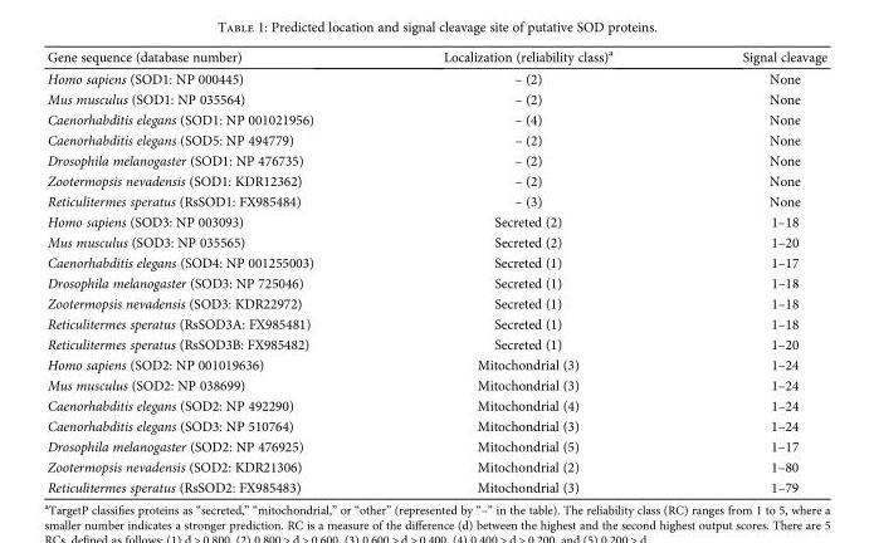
<table><thead><tr><td>Gene sequence (database number)</td><td>Localization (reliability class)<sup>a</sup></td><td>Signal cleavage</td></tr></thead><tbody><tr><td>Homo sapiens (SOD1: NP 000445)</td><td>– (2)</td><td>None</td></tr><tr><td>Mus musculus (SOD1: NP 035564)</td><td>– (2)</td><td>None</td></tr><tr><td>Caenorhabditis elegans (SOD1: NP 001021956)</td><td>– (4)</td><td>None</td></tr><tr><td>Caenorhabditis elegans (SOD5: NP 494779)</td><td>– (2)</td><td>None</td></tr><tr><td>Drosophila melanogaster (SOD1: NP 476735)</td><td>– (2)</td><td>None</td></tr><tr><td>Zootermopsis nevadensis (SOD1: KDR12362)</td><td>– (2)</td><td>None</td></tr><tr><td>Reticulitermes speratus (RsSOD1: FX985484)</td><td>– (3)</td><td>None</td></tr><tr><td>Homo sapiens (SOD3: NP 003093)</td><td>Secreted (2)</td><td>1–18</td></tr><tr><td>Mus musculus (SOD3: NP 035565)</td><td>Secreted (2)</td><td>1–20</td></tr><tr><td>Caenorhabditis elegans (SOD4: NP 001255003)</td><td>Secreted (1)</td><td>1–17</td></tr><tr><td>Drosophila melanogaster (SOD3: NP 725046)</td><td>Secreted (1)</td><td>1–18</td></tr><tr><td>Zootermopsis nevadensis (SOD3: KDR22972)</td><td>Secreted (1)</td><td>1–18</td></tr><tr><td>Reticulitermes speratus (RsSOD3A: FX985481)</td><td>Secreted (1)</td><td>1–18</td></tr><tr><td>Reticulitermes speratus (RsSOD3B: FX985482)</td><td>Secreted (1)</td><td>1–20</td></tr><tr><td>Homo sapiens (SOD2: NP 001019636)</td><td>Mitochondrial (3)</td><td>1–24</td></tr><tr><td>Mus musculus (SOD2: NP 038699)</td><td>Mitochondrial (3)</td><td>1–24</td></tr><tr><td>Caenorhabditis elegans (SOD2: NP 492290)</td><td>Mitochondrial (4)</td><td>1–24</td></tr><tr><td>Caenorhabditis elegans (SOD3: NP 510764)</td><td>Mitochondrial (3)</td><td>1–24</td></tr><tr><td>Drosophila melanogaster (SOD2: NP 476925)</td><td>Mitochondrial (5)</td><td>1–17</td></tr><tr><td>Zootermopsis nevadensis (SOD2: KDR21306)</td><td>Mitochondrial (2)</td><td>1–80</td></tr><tr><td>Reticulitermes speratus (RsSOD2: FX985483)</td><td>Mitochondrial (3)</td><td>1–79</td></tr></tbody></table>